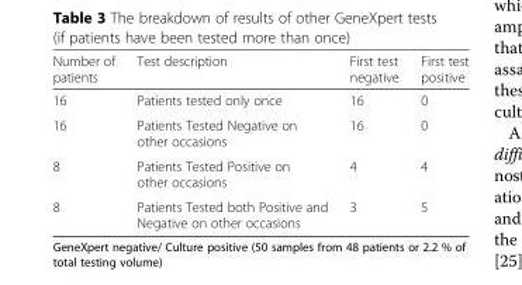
<table><thead><tr><td>Number of patients</td><td>Test description</td><td>First test negative</td><td>First test positive</td></tr></thead><tbody><tr><td>16</td><td>Patients tested only once</td><td>16</td><td>0</td></tr><tr><td>16</td><td>Patients Tested Negative on other occasions</td><td>16</td><td>0</td></tr><tr><td>8</td><td>Patients Tested Positive on other occasions</td><td>4</td><td>4</td></tr><tr><td>8</td><td>Patients Tested both Positive and Negative on other occasions</td><td>3</td><td>5</td></tr></tbody></table>